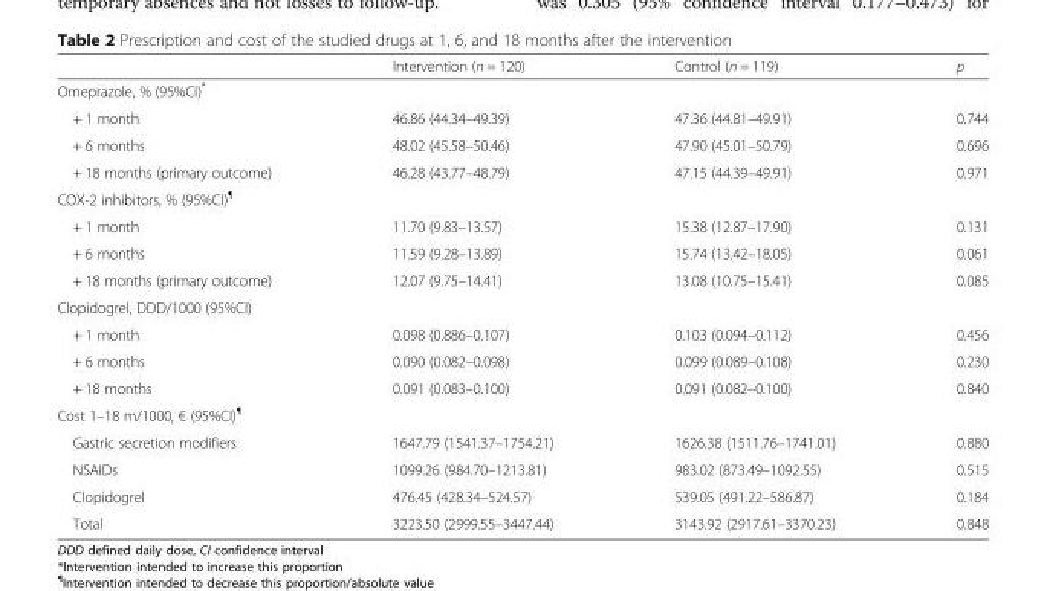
<table><thead><tr><td></td><td>Intervention (n = 120)</td><td>Control (n = 119)</td><td>p</td></tr></thead><tbody><tr><td colspan="4">Omeprazole, % (95%CI)*</td></tr><tr><td>+ 1 month</td><td>46.86 (44.34–49.39)</td><td>47.36 (44.81–49.91)</td><td>0.744</td></tr><tr><td>+ 6 months</td><td>48.02 (45.58–50.46)</td><td>47.90 (45.01–50.79)</td><td>0.696</td></tr><tr><td>+ 18 months (primary outcome)</td><td>46.28 (43.77–48.79)</td><td>47.15 (44.39–49.91)</td><td>0.971</td></tr><tr><td colspan="4">COX-2 inhibitors, % (95%CI)<sup>¶</sup></td></tr><tr><td>+ 1 month</td><td>11.70 (9.83–13.57)</td><td>15.38 (12.87–17.90)</td><td>0.131</td></tr><tr><td>+ 6 months</td><td>11.59 (9.28–13.89)</td><td>15.74 (13.42–18.05)</td><td>0.061</td></tr><tr><td>+ 18 months (primary outcome)</td><td>12.07 (9.75–14.41)</td><td>13.08 (10.75–15.41)</td><td>0.085</td></tr><tr><td colspan="4">Clopidogrel, DDD/1000 (95%CI)</td></tr><tr><td>+ 1 month</td><td>0.098 (0.886–0.107)</td><td>0.103 (0.094–0.112)</td><td>0.456</td></tr><tr><td>+ 6 months</td><td>0.090 (0.082–0.098)</td><td>0.099 (0.089–0.108)</td><td>0.230</td></tr><tr><td>+ 18 months</td><td>0.091 (0.083–0.100)</td><td>0.091 (0.082–0.100)</td><td>0.840</td></tr><tr><td colspan="4">Cost 1–18 m/1000, € (95%CI)<sup>¶</sup></td></tr><tr><td>Gastric secretion modifiers</td><td>1647.79 (1541.37–1754.21)</td><td>1626.38 (1511.76–1741.01)</td><td>0.880</td></tr><tr><td>NSAIDs</td><td>1099.26 (984.70–1213.81)</td><td>983.02 (873.49–1092.55)</td><td>0.515</td></tr><tr><td>Clopidogrel</td><td>476.45 (428.34–524.57)</td><td>539.05 (491.22–586.87)</td><td>0.184</td></tr><tr><td>Total</td><td>3223.50 (2999.55–3447.44)</td><td>3143.92 (2917.61–3370.23)</td><td>0.848</td></tr></tbody></table>